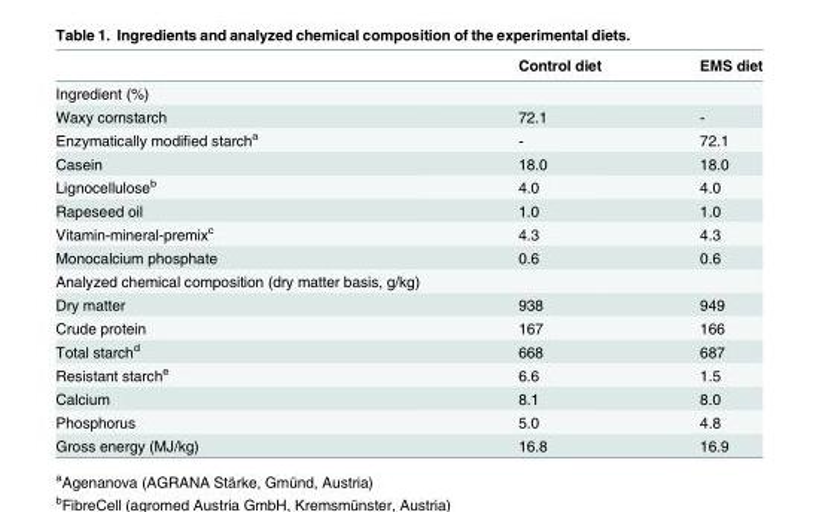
<table><thead><tr><td></td><td>Control diet</td><td>EMS diet</td></tr></thead><tbody><tr><td colspan="3">Ingredient (%)</td></tr><tr><td>Waxy cornstarch</td><td>72.1</td><td>-</td></tr><tr><td>Enzymatically modified starch<sup>a</sup></td><td>-</td><td>72.1</td></tr><tr><td>Casein</td><td>18.0</td><td>18.0</td></tr><tr><td>Lignocellulose<sup>b</sup></td><td>4.0</td><td>4.0</td></tr><tr><td>Rapeseed oil</td><td>1.0</td><td>1.0</td></tr><tr><td>Vitamin-mineral-premix<sup>c</sup></td><td>4.3</td><td>4.3</td></tr><tr><td>Monocalcium phosphate</td><td>0.6</td><td>0.6</td></tr><tr><td colspan="3">Analyzed chemical composition (dry matter basis, g/kg)</td></tr><tr><td>Dry matter</td><td>938</td><td>949</td></tr><tr><td>Crude protein</td><td>167</td><td>166</td></tr><tr><td>Total starch<sup>d</sup></td><td>668</td><td>687</td></tr><tr><td>Resistant starch<sup>e</sup></td><td>6.6</td><td>1.5</td></tr><tr><td>Calcium</td><td>8.1</td><td>8.0</td></tr><tr><td>Phosphorus</td><td>5.0</td><td>4.8</td></tr><tr><td>Gross energy (MJ/kg)</td><td>16.8</td><td>16.9</td></tr></tbody></table>